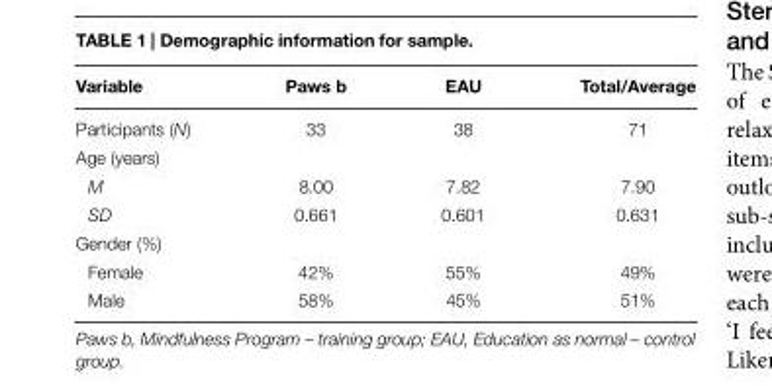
<table><thead><tr><td>Variable</td><td>Paws b</td><td>EAU</td><td>Total/Average</td></tr></thead><tbody><tr><td>Participants (N)</td><td>33</td><td>38</td><td>71</td></tr><tr><td colspan="4">Age (years)</td></tr><tr><td>M</td><td>8.00</td><td>7.82</td><td>7.90</td></tr><tr><td>SD</td><td>0.661</td><td>0.601</td><td>0.631</td></tr><tr><td colspan="4">Gender (%)</td></tr><tr><td>Female</td><td>42%</td><td>55%</td><td>49%</td></tr><tr><td>Male</td><td>58%</td><td>45%</td><td>51%</td></tr></tbody></table>